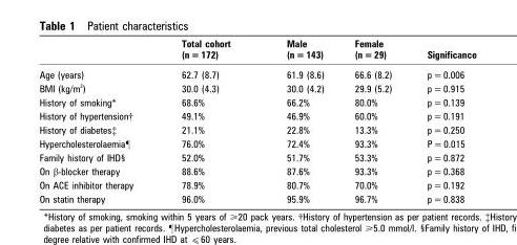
<table><thead><tr><td></td><td>Total cohort (n = 172)</td><td>Male (n = 143)</td><td>Female (n = 29)</td><td>Significance</td></tr></thead><tbody><tr><td>Age (years)</td><td>62.7 (8.7)</td><td>61.9 (8.6)</td><td>66.6 (8.2)</td><td>p = 0.006</td></tr><tr><td>BMI (kg/m <sup>2</sup>)</td><td>30.0 (4.3)</td><td>30.0 (4.2)</td><td>29.9 (5.2)</td><td>p = 0.915</td></tr><tr><td>History of smoking*</td><td>68.6%</td><td>66.2%</td><td>80.0%</td><td>p = 0.139</td></tr><tr><td>History of hypertension†</td><td>49.1%</td><td>46.9%</td><td>60.0%</td><td>p = 0.191</td></tr><tr><td>History of diabetes‡</td><td>21.1%</td><td>22.8%</td><td>13.3%</td><td>p = 0.250</td></tr><tr><td>Hypercholesterolaemia¶</td><td>76.0%</td><td>72.4%</td><td>93.3%</td><td>P = 0.015</td></tr><tr><td>Family history of IHD§</td><td>52.0%</td><td>51.7%</td><td>53.3%</td><td>p = 0.872</td></tr><tr><td>On β-blocker therapy</td><td>88.6%</td><td>87.6%</td><td>93.3%</td><td>p = 0.368</td></tr><tr><td>On ACE inhibitor therapy</td><td>78.9%</td><td>80.7%</td><td>70.0%</td><td>p = 0.192</td></tr><tr><td>On statin therapy</td><td>96.0%</td><td>95.9%</td><td>96.7%</td><td>p = 0.838</td></tr></tbody></table>